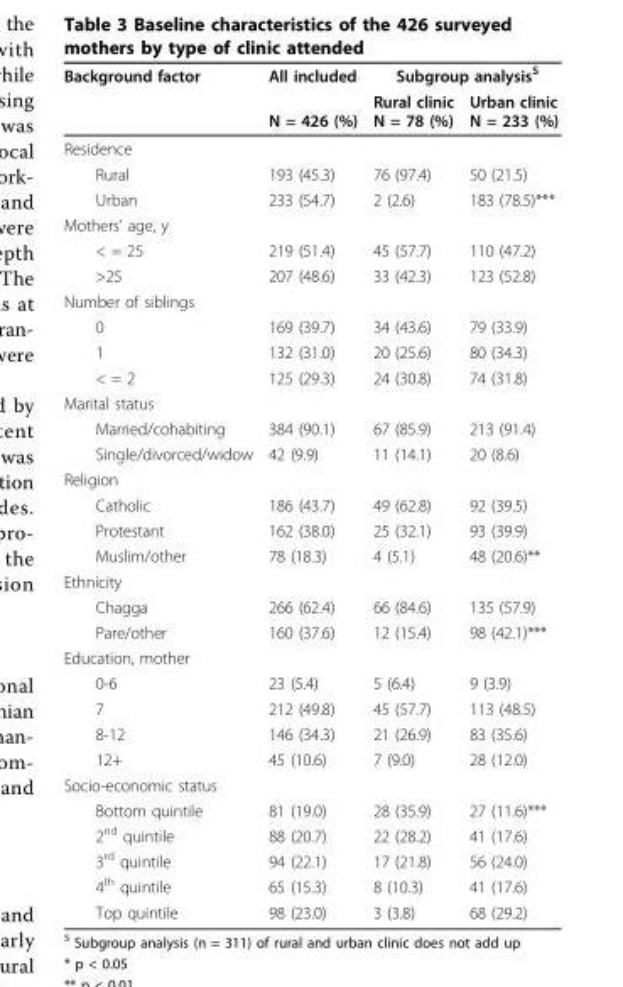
<table><thead><tr><td rowspan="2">Background factor</td><td rowspan="2">All included N = 426 (%)</td><td colspan="2">Subgroup analysis<sup>S</sup></td></tr><tr><td>Rural clinic N = 78 (%)</td><td>Urban clinic N = 233 (%)</td></tr></thead><tbody><tr><td colspan="4">Residence</td></tr><tr><td>Rural</td><td>193 (45.3)</td><td>76 (97.4)</td><td>50 (21.5)</td></tr><tr><td>Urban</td><td>233 (54.7)</td><td>2 (2.6)</td><td>183 (78.5)***</td></tr><tr><td colspan="4">Mothers’ age, y</td></tr><tr><td>&lt; = 25</td><td>219 (51.4)</td><td>45 (57.7)</td><td>110 (47.2)</td></tr><tr><td>&gt;25</td><td>207 (48.6)</td><td>33 (42.3)</td><td>123 (52.8)</td></tr><tr><td colspan="4">Number of siblings</td></tr><tr><td>0</td><td>169 (39.7)</td><td>34 (43.6)</td><td>79 (33.9)</td></tr><tr><td>1</td><td>132 (31.0)</td><td>20 (25.6)</td><td>80 (34.3)</td></tr><tr><td>&lt; = 2</td><td>125 (29.3)</td><td>24 (30.8)</td><td>74 (31.8)</td></tr><tr><td colspan="4">Marital status</td></tr><tr><td>Married/cohabiting</td><td>384 (90.1)</td><td>67 (85.9)</td><td>213 (91.4)</td></tr><tr><td>Single/divorced/widow</td><td>42 (9.9)</td><td>11 (14.1)</td><td>20 (8.6)</td></tr><tr><td colspan="4">Religion</td></tr><tr><td>Catholic</td><td>186 (43.7)</td><td>49 (62.8)</td><td>92 (39.5)</td></tr><tr><td>Protestant</td><td>162 (38.0)</td><td>25 (32.1)</td><td>93 (39.9)</td></tr><tr><td>Muslim/other</td><td>78 (18.3)</td><td>4 (5.1)</td><td>48 (20.6)**</td></tr><tr><td colspan="4">Ethnicity</td></tr><tr><td>Chagga</td><td>266 (62.4)</td><td>66 (84.6)</td><td>135 (57.9)</td></tr><tr><td>Pare/other</td><td>160 (37.6)</td><td>12 (15.4)</td><td>98 (42.1)***</td></tr><tr><td colspan="4">Education, mother</td></tr><tr><td>0-6</td><td>23 (5.4)</td><td>5 (6.4)</td><td>9 (3.9)</td></tr><tr><td>7</td><td>212 (49.8)</td><td>45 (57.7)</td><td>113 (48.5)</td></tr><tr><td>8-12</td><td>146 (34.3)</td><td>21 (26.9)</td><td>83 (35.6)</td></tr><tr><td>12+</td><td>45 (10.6)</td><td>7 (9.0)</td><td>28 (12.0)</td></tr><tr><td colspan="4">Socio-economic status</td></tr><tr><td>Bottom quintile</td><td>81 (19.0)</td><td>28 (35.9)</td><td>27 (11.6)***</td></tr><tr><td>2<sup>nd</sup> quintile</td><td>88 (20.7)</td><td>22 (28.2)</td><td>41 (17.6)</td></tr><tr><td>3<sup>rd</sup> quintile</td><td>94 (22.1)</td><td>17 (21.8)</td><td>56 (24.0)</td></tr><tr><td>4<sup>th</sup> quintile</td><td>65 (15.3)</td><td>8 (10.3)</td><td>41 (17.6)</td></tr><tr><td>Top quintile</td><td>98 (23.0)</td><td>3 (3.8)</td><td>68 (29.2)</td></tr></tbody></table>